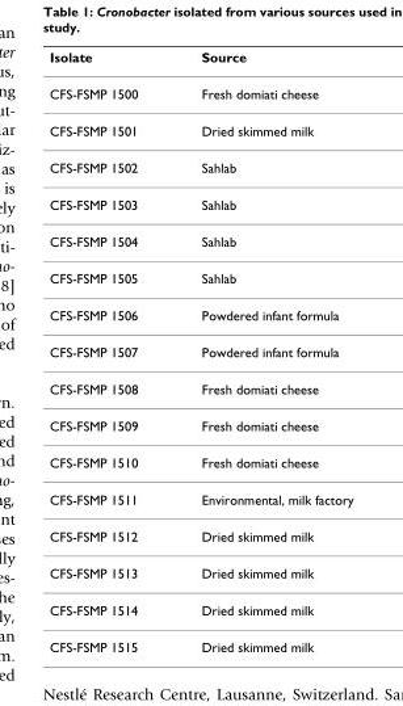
<table><thead><tr><td>Isolate</td><td>Source</td></tr></thead><tbody><tr><td>CFS-FSMP 1500</td><td>Fresh domiati cheese</td></tr><tr><td>CFS-FSMP 1501</td><td>Dried skimmed milk</td></tr><tr><td>CFS-FSMP 1502</td><td>Sahlab</td></tr><tr><td>CFS-FSMP 1503</td><td>Sahlab</td></tr><tr><td>CFS-FSMP 1504</td><td>Sahlab</td></tr><tr><td>CFS-FSMP 1505</td><td>Sahlab</td></tr><tr><td>CFS-FSMP 1506</td><td>Powdered infant formula</td></tr><tr><td>CFS-FSMP 1507</td><td>Powdered infant formula</td></tr><tr><td>CFS-FSMP 1508</td><td>Fresh domiati cheese</td></tr><tr><td>CFS-FSMP 1509</td><td>Fresh domiati cheese</td></tr><tr><td>CFS-FSMP 1510</td><td>Fresh domiati cheese</td></tr><tr><td>CFS-FSMP 1511</td><td>Environmental, milk factory</td></tr><tr><td>CFS-FSMP 1512</td><td>Dried skimmed milk</td></tr><tr><td>CFS-FSMP 1513</td><td>Dried skimmed milk</td></tr><tr><td>CFS-FSMP 1514</td><td>Dried skimmed milk</td></tr><tr><td>CFS-FSMP 1515</td><td>Dried skimmed milk</td></tr></tbody></table>